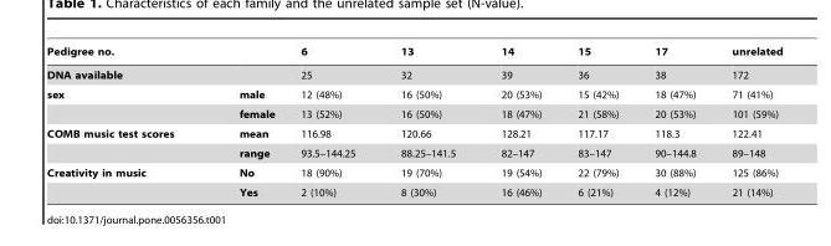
<table><thead><tr><td>Pedigree no.</td><td></td><td>6</td><td>13</td><td>14</td><td>15</td><td>17</td><td>unrelated</td></tr></thead><tbody><tr><td>DNA available</td><td></td><td>25</td><td>32</td><td>39</td><td>36</td><td>38</td><td>172</td></tr><tr><td rowspan="2">sex</td><td>male</td><td>12 (48%)</td><td>16 (50%)</td><td>20 (53%)</td><td>15 (42%)</td><td>18 (47%)</td><td>71 (41%)</td></tr><tr><td>female</td><td>13 (52%)</td><td>16 (50%)</td><td>18 (47%)</td><td>21 (58%)</td><td>20 (53%)</td><td>101 (59%)</td></tr><tr><td rowspan="2">COMB music test scores</td><td>mean</td><td>116.98</td><td>120.66</td><td>128.21</td><td>117.17</td><td>118.3</td><td>122.41</td></tr><tr><td>range</td><td>93.5–144.25</td><td>88.25–141.5</td><td>82–147</td><td>83–147</td><td>90–144.8</td><td>89–148</td></tr><tr><td rowspan="2">Creativity in music</td><td>No</td><td>18 (90%)</td><td>19 (70%)</td><td>19 (54%)</td><td>22 (79%)</td><td>30 (88%)</td><td>125 (86%)</td></tr><tr><td>Yes</td><td>2 (10%)</td><td>8 (30%)</td><td>16 (46%)</td><td>6 (21%)</td><td>4 (12%)</td><td>21 (14%)</td></tr></tbody></table>